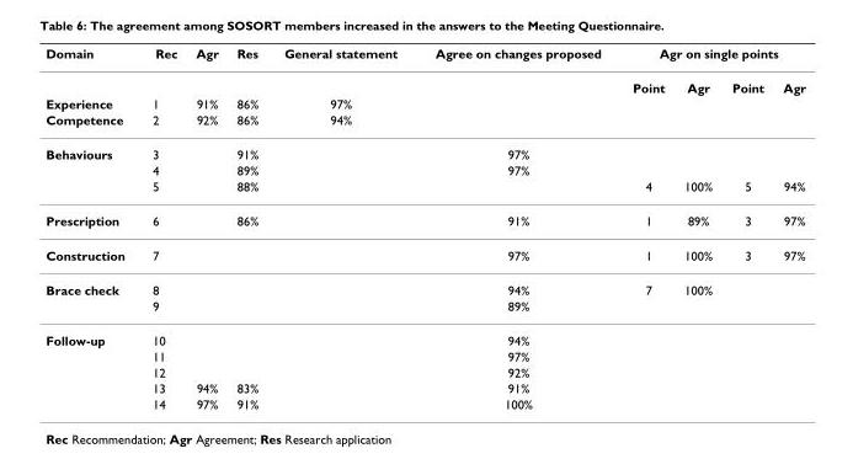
<table><thead><tr><td rowspan="2">Domain</td><td rowspan="2">Rec</td><td rowspan="2">Agr</td><td rowspan="2">Res</td><td rowspan="2">General statement</td><td rowspan="2">Agree on changes proposed</td><td colspan="4">Agr on single points</td></tr><tr><td>Point</td><td>Agr</td><td>Point</td><td>Agr</td></tr></thead><tbody><tr><td>Experience</td><td>1</td><td>91%</td><td>86%</td><td>97%</td><td></td><td></td><td></td><td></td><td></td></tr><tr><td>Competence</td><td>2</td><td>92%</td><td>86%</td><td>94%</td><td></td><td></td><td></td><td></td><td></td></tr><tr><td rowspan="3">Behaviours</td><td>3</td><td></td><td>91%</td><td></td><td>97%</td><td></td><td></td><td></td><td></td></tr><tr><td>4</td><td></td><td>89%</td><td></td><td>97%</td><td></td><td></td><td></td><td></td></tr><tr><td>5</td><td></td><td>88%</td><td></td><td></td><td>4</td><td>100%</td><td>5</td><td>94%</td></tr><tr><td>Prescription</td><td>6</td><td></td><td>86%</td><td></td><td>91%</td><td>1</td><td>89%</td><td>3</td><td>97%</td></tr><tr><td>Construction</td><td>7</td><td></td><td></td><td></td><td>97%</td><td>1</td><td>100%</td><td>3</td><td>97%</td></tr><tr><td rowspan="2">Brace check</td><td>8</td><td></td><td></td><td></td><td>94%</td><td>7</td><td>100%</td><td></td><td></td></tr><tr><td>9</td><td></td><td></td><td></td><td>89%</td><td></td><td></td><td></td><td></td></tr><tr><td rowspan="5">Follow-up</td><td>10</td><td></td><td></td><td></td><td>94%</td><td></td><td></td><td></td><td></td></tr><tr><td>11</td><td></td><td></td><td></td><td>97%</td><td></td><td></td><td></td><td></td></tr><tr><td>12</td><td></td><td></td><td></td><td>92%</td><td></td><td></td><td></td><td></td></tr><tr><td>13</td><td>94%</td><td>83%</td><td></td><td>91%</td><td></td><td></td><td></td><td></td></tr><tr><td>14</td><td>97%</td><td>91%</td><td></td><td>100%</td><td></td><td></td><td></td><td></td></tr></tbody></table>